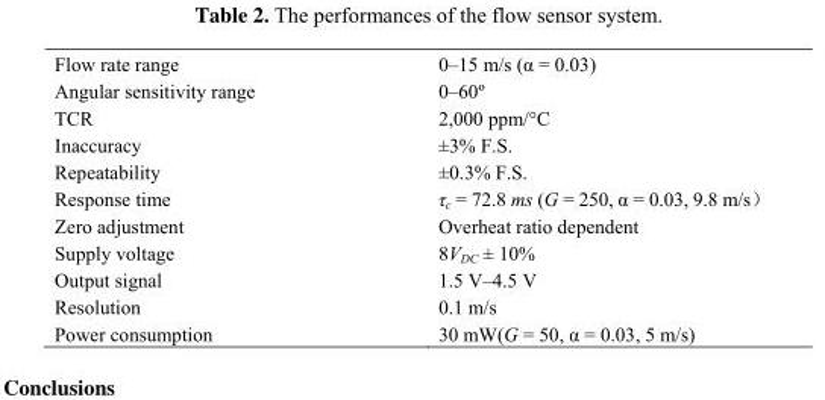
<table><tbody><tr><td>Flow rate range</td><td>0–15 m/s (α = 0.03)</td></tr><tr><td>Angular sensitivity range</td><td>0–60º</td></tr><tr><td>TCR</td><td>2,000 ppm/°C</td></tr><tr><td>Inaccuracy</td><td>±3% F.S.</td></tr><tr><td>Repeatability</td><td>±0.3% F.S.</td></tr><tr><td>Response time</td><td>τ<sub>c</sub> = 72.8 ms (G = 250, α = 0.03, 9.8 m/s）</td></tr><tr><td>Zero adjustment</td><td>Overheat ratio dependent</td></tr><tr><td>Supply voltage</td><td>8V<sub>DC</sub> ± 10%</td></tr><tr><td>Output signal</td><td>1.5 V–4.5 V</td></tr><tr><td>Resolution</td><td>0.1 m/s</td></tr><tr><td>Power consumption</td><td>30 mW(G = 50, α = 0.03, 5 m/s)</td></tr></tbody></table>